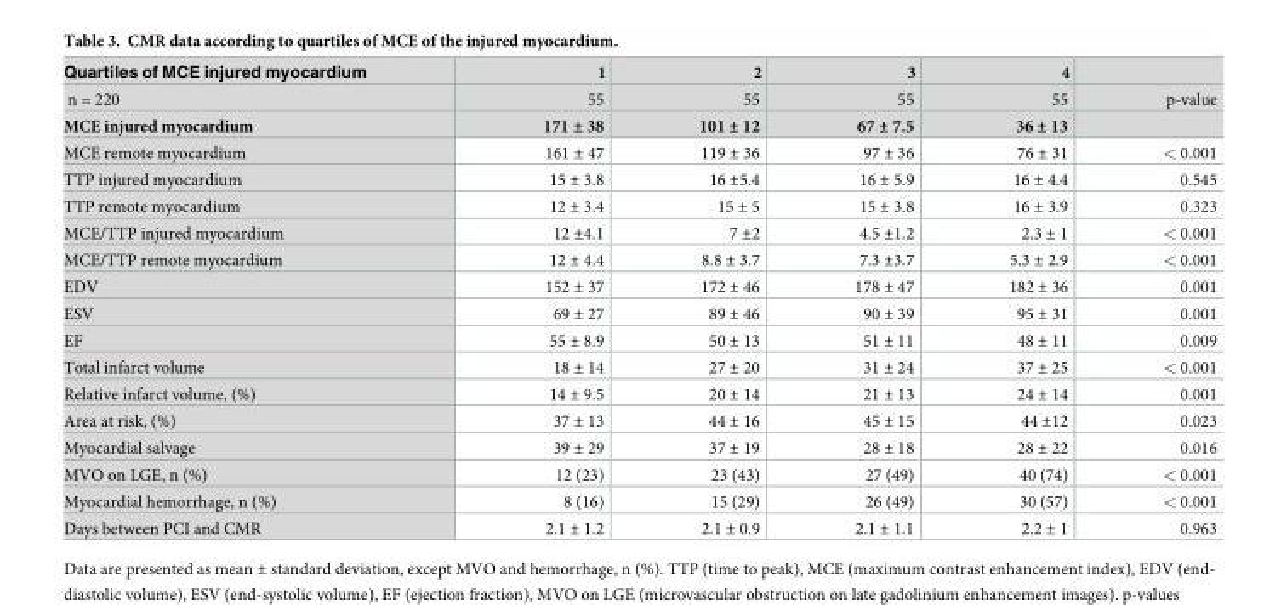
<table><thead><tr><td>Quartiles of MCE injured myocardium</td><td>1</td><td>2</td><td>3</td><td>4</td><td></td></tr></thead><tbody><tr><td>n = 220</td><td>55</td><td>55</td><td>55</td><td>55</td><td>p-value</td></tr><tr><td>MCE injured myocardium</td><td>171 ± 38</td><td>101 ± 12</td><td>67 ± 7.5</td><td>36 ± 13</td><td></td></tr><tr><td>MCE remote myocardium</td><td>161 ± 47</td><td>119 ± 36</td><td>97 ± 36</td><td>76 ± 31</td><td>&lt; 0.001</td></tr><tr><td>TTP injured myocardium</td><td>15 ± 3.8</td><td>16 ±5.4</td><td>16 ± 5.9</td><td>16 ± 4.4</td><td>0.545</td></tr><tr><td>TTP remote myocardium</td><td>12 ± 3.4</td><td>15 ± 5</td><td>15 ± 3.8</td><td>16 ± 3.9</td><td>0.323</td></tr><tr><td>MCE/TTP injured myocardium</td><td>12 ±4.1</td><td>7 ±2</td><td>4.5 ±1.2</td><td>2.3 ± 1</td><td>&lt; 0.001</td></tr><tr><td>MCE/TTP remote myocardium</td><td>12 ± 4.4</td><td>8.8 ± 3.7</td><td>7.3 ±3.7</td><td>5.3 ± 2.9</td><td>&lt; 0.001</td></tr><tr><td>EDV</td><td>152 ± 37</td><td>172 ± 46</td><td>178 ± 47</td><td>182 ± 36</td><td>0.001</td></tr><tr><td>ESV</td><td>69 ± 27</td><td>89 ± 46</td><td>90 ± 39</td><td>95 ± 31</td><td>0.001</td></tr><tr><td>EF</td><td>55 ± 8.9</td><td>50 ± 13</td><td>51 ± 11</td><td>48 ± 11</td><td>0.009</td></tr><tr><td>Total infarct volume</td><td>18 ± 14</td><td>27 ± 20</td><td>31 ± 24</td><td>37 ± 25</td><td>&lt; 0.001</td></tr><tr><td>Relative infarct volume, (%)</td><td>14 ± 9.5</td><td>20 ± 14</td><td>21 ± 13</td><td>24 ± 14</td><td>0.001</td></tr><tr><td>Area at risk, (%)</td><td>37 ± 13</td><td>44 ± 16</td><td>45 ± 15</td><td>44 ±12</td><td>0.023</td></tr><tr><td>Myocardial salvage</td><td>39 ± 29</td><td>37 ± 19</td><td>28 ± 18</td><td>28 ± 22</td><td>0.016</td></tr><tr><td>MVO on LGE, n (%)</td><td>12 (23)</td><td>23 (43)</td><td>27 (49)</td><td>40 (74)</td><td>&lt; 0.001</td></tr><tr><td>Myocardial hemorrhage, n (%)</td><td>8 (16)</td><td>15 (29)</td><td>26 (49)</td><td>30 (57)</td><td>&lt; 0.001</td></tr><tr><td>Days between PCI and CMR</td><td>2.1 ± 1.2</td><td>2.1 ± 0.9</td><td>2.1 ± 1.1</td><td>2.2 ± 1</td><td>0.963</td></tr></tbody></table>